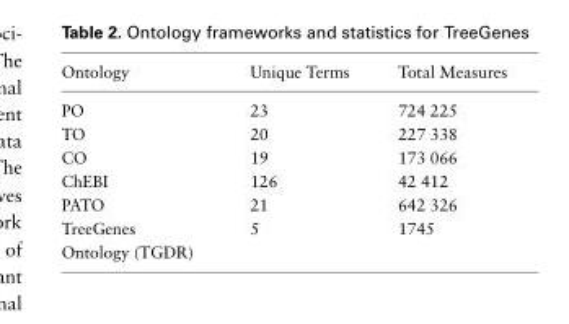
<table><thead><tr><td>Ontology</td><td>Unique Terms</td><td>Total Measures</td></tr></thead><tbody><tr><td>PO</td><td>23</td><td>724 225</td></tr><tr><td>TO</td><td>20</td><td>227 338</td></tr><tr><td>CO</td><td>19</td><td>173 066</td></tr><tr><td>ChEBI</td><td>126</td><td>42 412</td></tr><tr><td>PATO</td><td>21</td><td>642 326</td></tr><tr><td>TreeGenes Ontology (TGDR)</td><td>5</td><td>1745</td></tr></tbody></table>